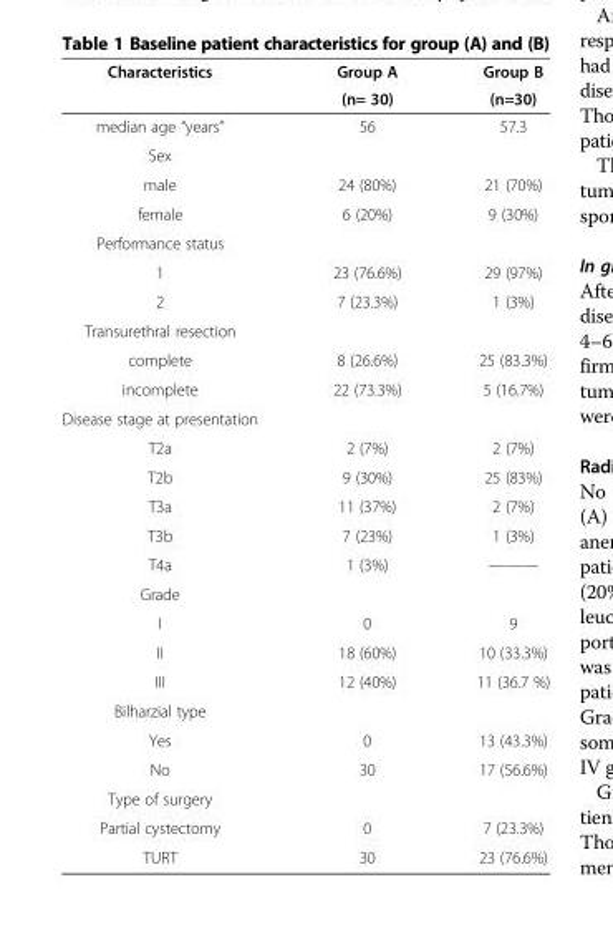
<table><thead><tr><td rowspan="2">Characteristics</td><td rowspan="2">Group A (n= 30)</td><td rowspan="2">Group B (n=30)</td></tr><tr></tr></thead><tbody><tr><td>median age “years”</td><td>56</td><td>57.3</td></tr><tr><td colspan="3">Sex</td></tr><tr><td>male</td><td>24 (80%)</td><td>21 (70%)</td></tr><tr><td>female</td><td>6 (20%)</td><td>9 (30%)</td></tr><tr><td colspan="3">Performance status</td></tr><tr><td>1</td><td>23 (76.6%)</td><td>29 (97%)</td></tr><tr><td>2</td><td>7 (23.3%)</td><td>1 (3%)</td></tr><tr><td colspan="3">Transurethral resection</td></tr><tr><td>complete</td><td>8 (26.6%)</td><td>25 (83.3%)</td></tr><tr><td>incomplete</td><td>22 (73.3%)</td><td>5 (16.7%)</td></tr><tr><td colspan="3">Disease stage at presentation</td></tr><tr><td>T2a</td><td>2 (7%)</td><td>2 (7%)</td></tr><tr><td>T2b</td><td>9 (30%)</td><td>25 (83%)</td></tr><tr><td>T3a</td><td>11 (37%)</td><td>2 (7%)</td></tr><tr><td>T3b</td><td>7 (23%)</td><td>1 (3%)</td></tr><tr><td>T4a</td><td>1 (3%)</td><td>———</td></tr><tr><td colspan="3">Grade</td></tr><tr><td>I</td><td>0</td><td>9</td></tr><tr><td>II</td><td>18 (60%)</td><td>10 (33.3%)</td></tr><tr><td>III</td><td>12 (40%)</td><td>11 (36.7 %)</td></tr><tr><td colspan="3">Bilharzial type</td></tr><tr><td>Yes</td><td>0</td><td>13 (43.3%)</td></tr><tr><td>No</td><td>30</td><td>17 (56.6%)</td></tr><tr><td colspan="3">Type of surgery</td></tr><tr><td>Partial cystectomy</td><td>0</td><td>7 (23.3%)</td></tr><tr><td>TURT</td><td>30</td><td>23 (76.6%)</td></tr></tbody></table>